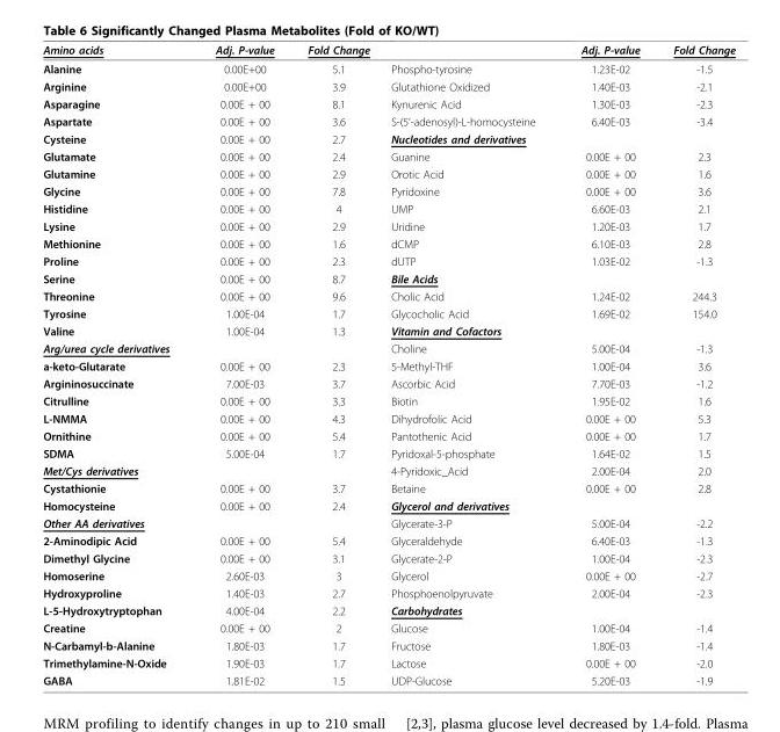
<table><thead><tr><td>Amino acids</td><td>Adj. P-value</td><td>Fold Change</td><td></td><td>Adj. P-value</td><td>Fold Change</td></tr></thead><tbody><tr><td>Alanine</td><td>0.00E+00</td><td>5.1</td><td>Phospho-tyrosine</td><td>1.23E-02</td><td>-1.5</td></tr><tr><td>Arginine</td><td>0.00E+00</td><td>3.9</td><td>Glutathione Oxidized</td><td>1.40E-03</td><td>-2.1</td></tr><tr><td>Asparagine</td><td>0.00E + 00</td><td>8.1</td><td>Kynurenic Acid</td><td>1.30E-03</td><td>-2.3</td></tr><tr><td>Aspartate</td><td>0.00E + 00</td><td>3.6</td><td>S-(5’-adenosyl)-L-homocysteine</td><td>6.40E-03</td><td>-3.4</td></tr><tr><td>Cysteine</td><td>0.00E + 00</td><td>2.7</td><td>Nucleotides and derivatives</td><td></td><td></td></tr><tr><td>Glutamate</td><td>0.00E + 00</td><td>2.4</td><td>Guanine</td><td>0.00E + 00</td><td>2.3</td></tr><tr><td>Glutamine</td><td>0.00E + 00</td><td>2.9</td><td>Orotic Acid</td><td>0.00E + 00</td><td>1.6</td></tr><tr><td>Glycine</td><td>0.00E + 00</td><td>7.8</td><td>Pyridoxine</td><td>0.00E + 00</td><td>3.6</td></tr><tr><td>Histidine</td><td>0.00E + 00</td><td>4</td><td>UMP</td><td>6.60E-03</td><td>2.1</td></tr><tr><td>Lysine</td><td>0.00E + 00</td><td>2.9</td><td>Uridine</td><td>1.20E-03</td><td>1.7</td></tr><tr><td>Methionine</td><td>0.00E + 00</td><td>1.6</td><td>dCMP</td><td>6.10E-03</td><td>2.8</td></tr><tr><td>Proline</td><td>0.00E + 00</td><td>2.3</td><td>dUTP</td><td>1.03E-02</td><td>-1.3</td></tr><tr><td>Serine</td><td>0.00E + 00</td><td>8.7</td><td>Bile Acids</td><td></td><td></td></tr><tr><td>Threonine</td><td>0.00E + 00</td><td>9.6</td><td>Cholic Acid</td><td>1.24E-02</td><td>244.3</td></tr><tr><td>Tyrosine</td><td>1.00E-04</td><td>1.7</td><td>Glycocholic Acid</td><td>1.69E-02</td><td>154.0</td></tr><tr><td>Valine</td><td>1.00E-04</td><td>1.3</td><td>Vitamin and Cofactors</td><td></td><td></td></tr><tr><td>Arg/urea cycle derivatives</td><td></td><td></td><td>Choline</td><td>5.00E-04</td><td>-1.3</td></tr><tr><td>a-keto-Glutarate</td><td>0.00E + 00</td><td>2.3</td><td>5-Methyl-THF</td><td>1.00E-04</td><td>3.6</td></tr><tr><td>Argininosuccinate</td><td>7.00E-03</td><td>3.7</td><td>Ascorbic Acid</td><td>7.70E-03</td><td>-1.2</td></tr><tr><td>Citrulline</td><td>0.00E + 00</td><td>3.3</td><td>Biotin</td><td>1.95E-02</td><td>1.6</td></tr><tr><td>L-NMMA</td><td>0.00E + 00</td><td>4.3</td><td>Dihydrofolic Acid</td><td>0.00E + 00</td><td>5.3</td></tr><tr><td>Ornithine</td><td>0.00E + 00</td><td>5.4</td><td>Pantothenic Acid</td><td>0.00E + 00</td><td>1.7</td></tr><tr><td>SDMA</td><td>5.00E-04</td><td>1.7</td><td>Pyridoxal-5-phosphate</td><td>1.64E-02</td><td>1.5</td></tr><tr><td>Met/Cys derivatives</td><td></td><td></td><td>4-Pyridoxic_Acid</td><td>2.00E-04</td><td>2.0</td></tr><tr><td>Cystathionie</td><td>0.00E + 00</td><td>3.7</td><td>Betaine</td><td>0.00E + 00</td><td>2.8</td></tr><tr><td>Homocysteine</td><td>0.00E + 00</td><td>2.4</td><td>Glycerol and derivatives</td><td></td><td></td></tr><tr><td>Other AA derivatives</td><td></td><td></td><td>Glycerate-3-P</td><td>5.00E-04</td><td>-2.2</td></tr><tr><td>2-Aminodipic Acid</td><td>0.00E + 00</td><td>5.4</td><td>Glyceraldehyde</td><td>6.40E-03</td><td>-1.3</td></tr><tr><td>Dimethyl Glycine</td><td>0.00E + 00</td><td>3.1</td><td>Glycerate-2-P</td><td>1.00E-04</td><td>-2.3</td></tr><tr><td>Homoserine</td><td>2.60E-03</td><td>3</td><td>Glycerol</td><td>0.00E + 00</td><td>-2.7</td></tr><tr><td>Hydroxyproline</td><td>1.40E-03</td><td>2.7</td><td>Phosphoenolpyruvate</td><td>2.00E-04</td><td>-2.3</td></tr><tr><td>L-5-Hydroxytryptophan</td><td>4.00E-04</td><td>2.2</td><td>Carbohydrates</td><td></td><td></td></tr><tr><td>Creatine</td><td>0.00E + 00</td><td>2</td><td>Glucose</td><td>1.00E-04</td><td>-1.4</td></tr><tr><td>N-Carbamyl-b-Alanine</td><td>1.80E-03</td><td>1.7</td><td>Fructose</td><td>1.80E-03</td><td>-1.4</td></tr><tr><td>Trimethylamine-N-Oxide</td><td>1.90E-03</td><td>1.7</td><td>Lactose</td><td>0.00E + 00</td><td>-2.0</td></tr><tr><td>GABA</td><td>1.81E-02</td><td>1.5</td><td>UDP-Glucose</td><td>5.20E-03</td><td>-1.9</td></tr></tbody></table>